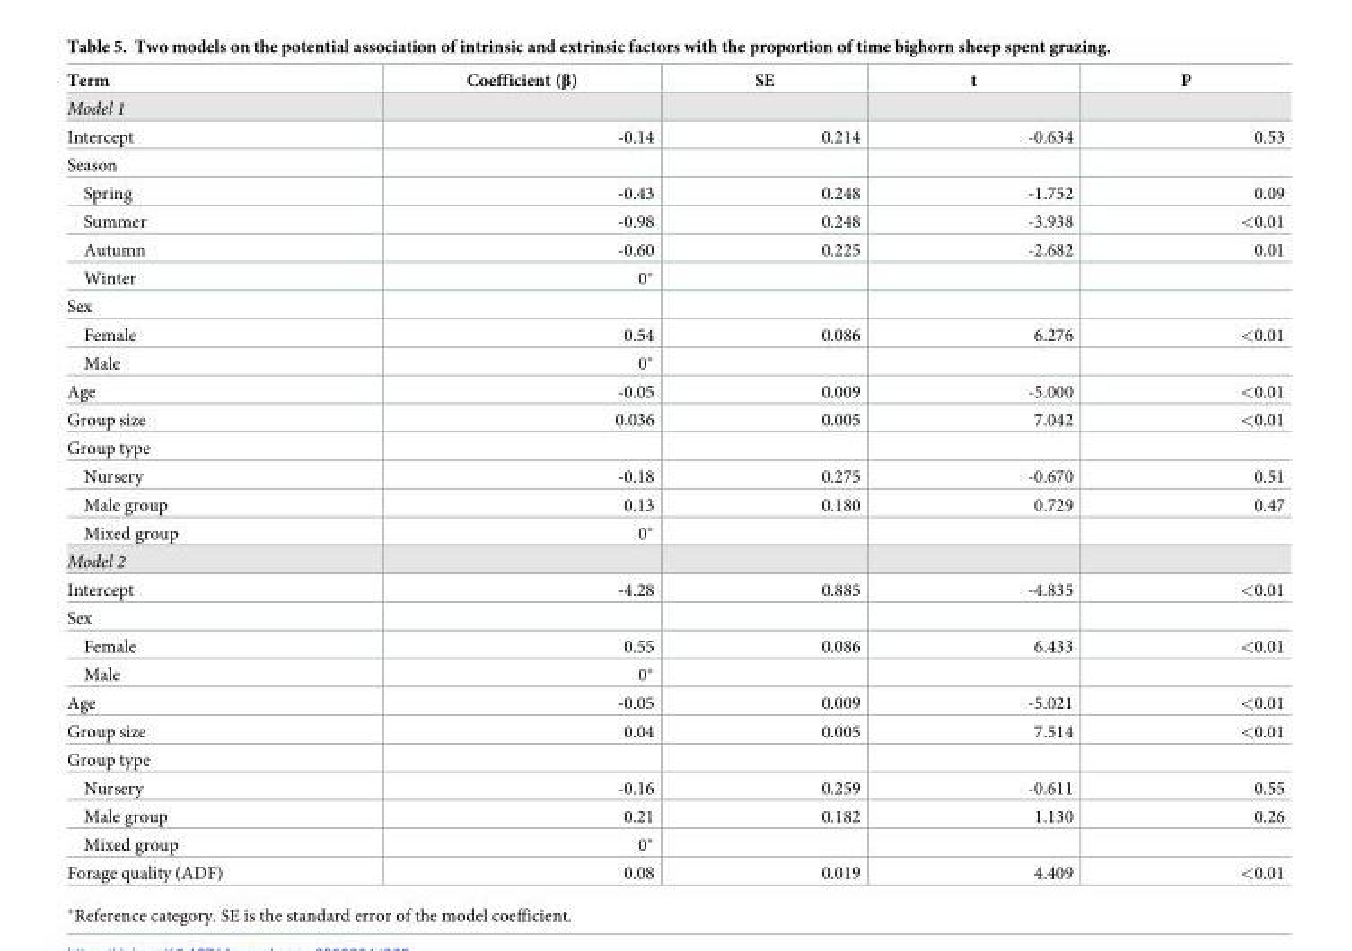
<table><thead><tr><td>Term</td><td>Coefficient (β)</td><td>SE</td><td>t</td><td>P</td></tr></thead><tbody><tr><td colspan="5">Model 1</td></tr><tr><td>Intercept</td><td>-0.14</td><td>0.214</td><td>-0.634</td><td>0.53</td></tr><tr><td colspan="5">Season</td></tr><tr><td>Spring</td><td>-0.43</td><td>0.248</td><td>-1.752</td><td>0.09</td></tr><tr><td>Summer</td><td>-0.98</td><td>0.248</td><td>-3.938</td><td>&lt;0.01</td></tr><tr><td>Autumn</td><td>-0.60</td><td>0.225</td><td>-2.682</td><td>0.01</td></tr><tr><td>Winter</td><td>0*</td><td></td><td></td><td></td></tr><tr><td colspan="5">Sex</td></tr><tr><td>Female</td><td>0.54</td><td>0.086</td><td>6.276</td><td>&lt;0.01</td></tr><tr><td>Male</td><td>0*</td><td></td><td></td><td></td></tr><tr><td>Age</td><td>-0.05</td><td>0.009</td><td>-5.000</td><td>&lt;0.01</td></tr><tr><td>Group size</td><td>0.036</td><td>0.005</td><td>7.042</td><td>&lt;0.01</td></tr><tr><td colspan="5">Group type</td></tr><tr><td>Nursery</td><td>-0.18</td><td>0.275</td><td>-0.670</td><td>0.51</td></tr><tr><td>Male group</td><td>0.13</td><td>0.180</td><td>0.729</td><td>0.47</td></tr><tr><td>Mixed group</td><td>0*</td><td></td><td></td><td></td></tr><tr><td colspan="5">Model 2</td></tr><tr><td>Intercept</td><td>-4.28</td><td>0.885</td><td>-4.835</td><td>&lt;0.01</td></tr><tr><td colspan="5">Sex</td></tr><tr><td>Female</td><td>0.55</td><td>0.086</td><td>6.433</td><td>&lt;0.01</td></tr><tr><td>Male</td><td>0*</td><td></td><td></td><td></td></tr><tr><td>Age</td><td>-0.05</td><td>0.009</td><td>-5.021</td><td>&lt;0.01</td></tr><tr><td>Group size</td><td>0.04</td><td>0.005</td><td>7.514</td><td>&lt;0.01</td></tr><tr><td colspan="5">Group type</td></tr><tr><td>Nursery</td><td>-0.16</td><td>0.259</td><td>-0.611</td><td>0.55</td></tr><tr><td>Male group</td><td>0.21</td><td>0.182</td><td>1.130</td><td>0.26</td></tr><tr><td>Mixed group</td><td>0*</td><td></td><td></td><td></td></tr><tr><td>Forage quality (ADF)</td><td>0.08</td><td>0.019</td><td>4.409</td><td>&lt;0.01</td></tr></tbody></table>